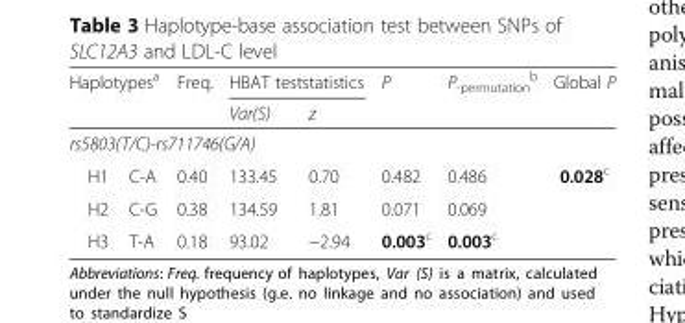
<table><thead><tr><td rowspan="2" colspan="2">Haplotypes<sup>a</sup></td><td rowspan="2">Freq.</td><td colspan="2">HBAT teststatistics</td><td rowspan="4">P 0.482</td><td rowspan="4">P<sub>-permutation</sub> <sup>b</sup> 0.486</td><td rowspan="4">Global P 0.028<sup>c</sup></td></tr><tr><td>Var(S)</td><td>z</td></tr><tr><td colspan="5">rs5803(T/C)-rs711746(G/A)</td></tr><tr><td>H1</td><td>C-A</td><td>0.40</td><td>133.45</td><td>0.70</td></tr></thead><tbody><tr><td>H2</td><td>C-G</td><td>0.38</td><td>134.59</td><td>1.81</td><td>0.071</td><td>0.069</td><td></td></tr><tr><td>H3</td><td>T-A</td><td>0.18</td><td>93.02</td><td>−2.94</td><td>0.003<sup>c</sup></td><td>0.003<sup>c</sup></td><td></td></tr></tbody></table>